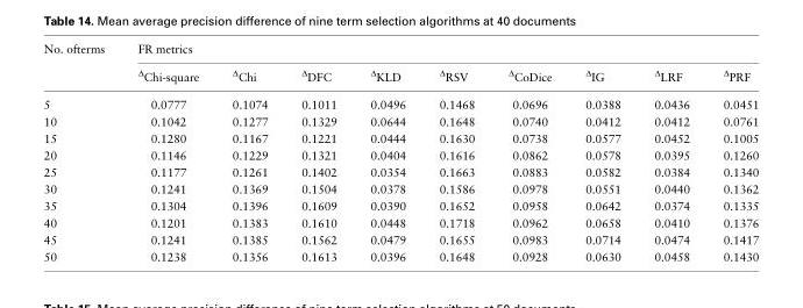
<table><thead><tr><td rowspan="2">No. ofterms</td><td colspan="9">FR metrics</td></tr><tr><td><sup>Δ</sup>Chi-square</td><td><sup>Δ</sup>Chi</td><td><sup>Δ</sup>DFC</td><td><sup>Δ</sup>KLD</td><td><sup>Δ</sup>RSV</td><td><sup>Δ</sup>CoDice</td><td><sup>Δ</sup>IG</td><td><sup>Δ</sup>LRF</td><td><sup>Δ</sup>PRF</td></tr></thead><tbody><tr><td>5</td><td>0.0777</td><td>0.1074</td><td>0.1011</td><td>0.0496</td><td>0.1468</td><td>0.0696</td><td>0.0388</td><td>0.0436</td><td>0.0451</td></tr><tr><td>10</td><td>0.1042</td><td>0.1277</td><td>0.1329</td><td>0.0644</td><td>0.1648</td><td>0.0740</td><td>0.0412</td><td>0.0412</td><td>0.0761</td></tr><tr><td>15</td><td>0.1280</td><td>0.1167</td><td>0.1221</td><td>0.0444</td><td>0.1630</td><td>0.0738</td><td>0.0577</td><td>0.0452</td><td>0.1005</td></tr><tr><td>20</td><td>0.1146</td><td>0.1229</td><td>0.1321</td><td>0.0404</td><td>0.1616</td><td>0.0862</td><td>0.0578</td><td>0.0395</td><td>0.1260</td></tr><tr><td>25</td><td>0.1177</td><td>0.1261</td><td>0.1402</td><td>0.0354</td><td>0.1663</td><td>0.0883</td><td>0.0582</td><td>0.0384</td><td>0.1340</td></tr><tr><td>30</td><td>0.1241</td><td>0.1369</td><td>0.1504</td><td>0.0378</td><td>0.1586</td><td>0.0978</td><td>0.0551</td><td>0.0440</td><td>0.1362</td></tr><tr><td>35</td><td>0.1304</td><td>0.1396</td><td>0.1609</td><td>0.0390</td><td>0.1652</td><td>0.0958</td><td>0.0642</td><td>0.0374</td><td>0.1335</td></tr><tr><td>40</td><td>0.1201</td><td>0.1383</td><td>0.1610</td><td>0.0448</td><td>0.1718</td><td>0.0962</td><td>0.0658</td><td>0.0410</td><td>0.1376</td></tr><tr><td>45</td><td>0.1241</td><td>0.1385</td><td>0.1562</td><td>0.0479</td><td>0.1655</td><td>0.0983</td><td>0.0714</td><td>0.0474</td><td>0.1417</td></tr><tr><td>50</td><td>0.1238</td><td>0.1356</td><td>0.1613</td><td>0.0396</td><td>0.1648</td><td>0.0928</td><td>0.0630</td><td>0.0458</td><td>0.1430</td></tr></tbody></table>